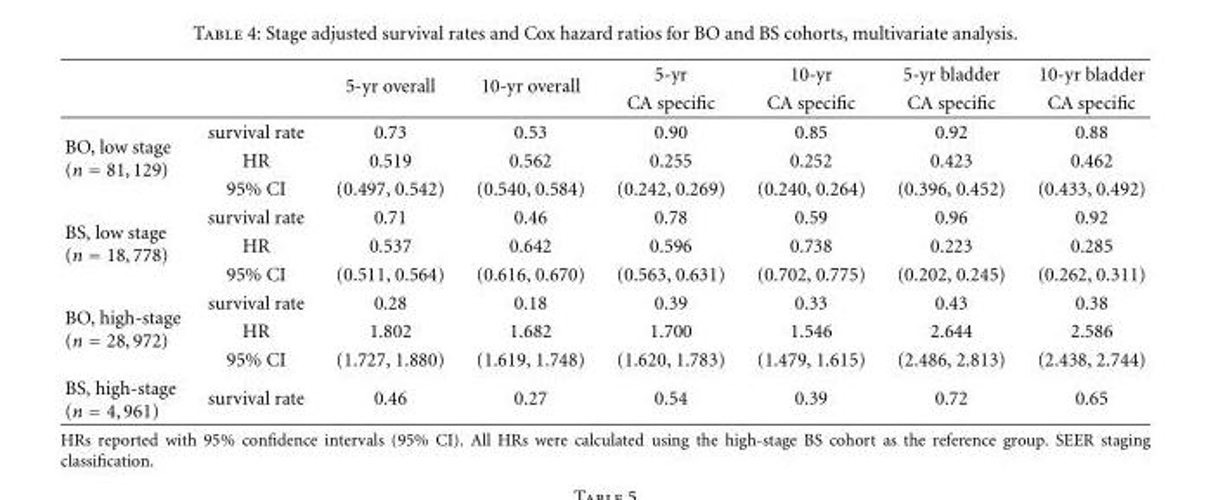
<table><thead><tr><td rowspan="2"></td><td rowspan="2"></td><td rowspan="2">5-yr overall</td><td rowspan="2">10-yr overall</td><td rowspan="2">5-yr CA specific</td><td rowspan="2">10-yr CA specific</td><td rowspan="2">5-yr bladder CA specific</td><td rowspan="2">10-yr bladder CA specific</td></tr><tr></tr></thead><tbody><tr><td rowspan="3">BO, low stage (n = 81,129)</td><td>survival rate</td><td>0.73</td><td>0.53</td><td>0.90</td><td>0.85</td><td>0.92</td><td>0.88</td></tr><tr><td>HR</td><td>0.519</td><td>0.562</td><td>0.255</td><td>0.252</td><td>0.423</td><td>0.462</td></tr><tr><td>95% CI</td><td>(0.497, 0.542)</td><td>(0.540, 0.584)</td><td>(0.242, 0.269)</td><td>(0.240, 0.264)</td><td>(0.396, 0.452)</td><td>(0.433, 0.492)</td></tr><tr><td rowspan="3">BS, low stage (n = 18,778)</td><td>survival rate</td><td>0.71</td><td>0.46</td><td>0.78</td><td>0.59</td><td>0.96</td><td>0.92</td></tr><tr><td>HR</td><td>0.537</td><td>0.642</td><td>0.596</td><td>0.738</td><td>0.223</td><td>0.285</td></tr><tr><td>95% CI</td><td>(0.511, 0.564)</td><td>(0.616, 0.670)</td><td>(0.563, 0.631)</td><td>(0.702, 0.775)</td><td>(0.202, 0.245)</td><td>(0.262, 0.311)</td></tr><tr><td rowspan="3">BO, high-stage (n = 28,972)</td><td>survival rate</td><td>0.28</td><td>0.18</td><td>0.39</td><td>0.33</td><td>0.43</td><td>0.38</td></tr><tr><td>HR</td><td>1.802</td><td>1.682</td><td>1.700</td><td>1.546</td><td>2.644</td><td>2.586</td></tr><tr><td>95% CI</td><td>(1.727, 1.880)</td><td>(1.619, 1.748)</td><td>(1.620, 1.783)</td><td>(1.479, 1.615)</td><td>(2.486, 2.813)</td><td>(2.438, 2.744)</td></tr><tr><td>BS, high-stage (n = 4,961)</td><td>survival rate</td><td>0.46</td><td>0.27</td><td>0.54</td><td>0.39</td><td>0.72</td><td>0.65</td></tr></tbody></table>